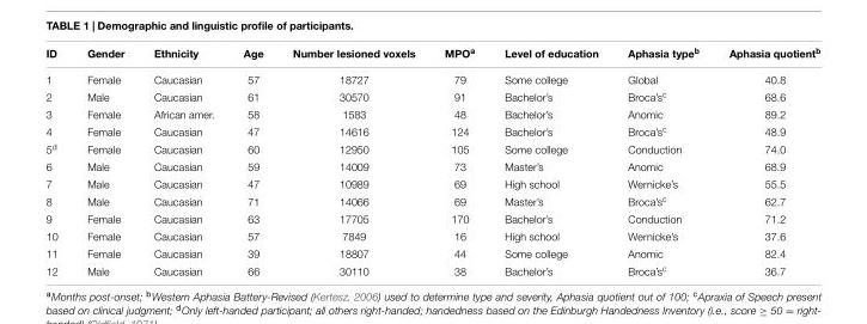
<table><thead><tr><td>ID</td><td>Gender</td><td>Ethnicity</td><td>Age</td><td>Number lesioned voxels</td><td>MPO<sup>a</sup></td><td>Level of education</td><td>Aphasia type<sup>b</sup></td><td>Aphasia quotient<sup>b</sup></td></tr></thead><tbody><tr><td>1</td><td>Female</td><td>Caucasian</td><td>57</td><td>18727</td><td>79</td><td>Some college</td><td>Global</td><td>40.8</td></tr><tr><td>2</td><td>Male</td><td>Caucasian</td><td>61</td><td>30570</td><td>91</td><td>Bachelor’s</td><td>Broca’s<sup>c</sup></td><td>68.6</td></tr><tr><td>3</td><td>Female</td><td>African amer.</td><td>58</td><td>1583</td><td>48</td><td>Bachelor’s</td><td>Anomic</td><td>89.2</td></tr><tr><td>4</td><td>Female</td><td>Caucasian</td><td>47</td><td>14616</td><td>124</td><td>Bachelor’s</td><td>Broca’s<sup>c</sup></td><td>48.9</td></tr><tr><td>5<sup>d</sup></td><td>Female</td><td>Caucasian</td><td>60</td><td>12950</td><td>105</td><td>Some college</td><td>Conduction</td><td>74.0</td></tr><tr><td>6</td><td>Male</td><td>Caucasian</td><td>59</td><td>14009</td><td>73</td><td>Master’s</td><td>Anomic</td><td>68.9</td></tr><tr><td>7</td><td>Male</td><td>Caucasian</td><td>47</td><td>10989</td><td>69</td><td>High school</td><td>Wernicke’s</td><td>55.5</td></tr><tr><td>8</td><td>Male</td><td>Caucasian</td><td>71</td><td>14066</td><td>69</td><td>Master’s</td><td>Broca’s<sup>c</sup></td><td>62.7</td></tr><tr><td>9</td><td>Female</td><td>Caucasian</td><td>63</td><td>17705</td><td>170</td><td>Bachelor’s</td><td>Conduction</td><td>71.2</td></tr><tr><td>10</td><td>Female</td><td>Caucasian</td><td>57</td><td>7849</td><td>16</td><td>High school</td><td>Wernicke’s</td><td>37.6</td></tr><tr><td>11</td><td>Female</td><td>Caucasian</td><td>39</td><td>18807</td><td>44</td><td>Some college</td><td>Anomic</td><td>82.4</td></tr><tr><td>12</td><td>Male</td><td>Caucasian</td><td>66</td><td>30110</td><td>38</td><td>Bachelor’s</td><td>Broca’s<sup>c</sup></td><td>36.7</td></tr></tbody></table>